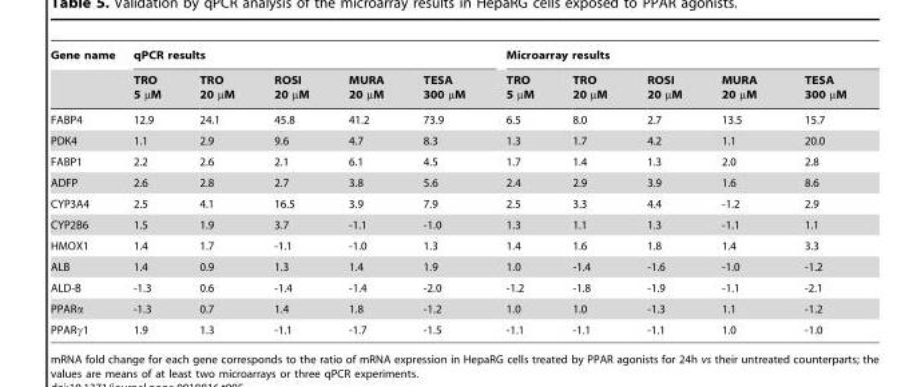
<table><thead><tr><td rowspan="2">Gene name</td><td colspan="5">qPCR results</td><td colspan="5">Microarray results</td></tr><tr><td>TRO 5 µM</td><td>TRO 20 µM</td><td>ROSI 20 µM</td><td>MURA 20 µM</td><td>TESA 300 µM</td><td>TRO 5 µM</td><td>TRO 20 µM</td><td>ROSI 20 µM</td><td>MURA 20 µM</td><td>TESA 300 µM</td></tr></thead><tbody><tr><td>FABP4</td><td>12.9</td><td>24.1</td><td>45.8</td><td>41.2</td><td>73.9</td><td>6.5</td><td>8.0</td><td>2.7</td><td>13.5</td><td>15.7</td></tr><tr><td>PDK4</td><td>1.1</td><td>2.9</td><td>9.6</td><td>4.7</td><td>8.3</td><td>1.3</td><td>1.7</td><td>4.2</td><td>1.1</td><td>20.0</td></tr><tr><td>FABP1</td><td>2.2</td><td>2.6</td><td>2.1</td><td>6.1</td><td>4.5</td><td>1.7</td><td>1.4</td><td>1.3</td><td>2.0</td><td>2.8</td></tr><tr><td>ADFP</td><td>2.6</td><td>2.8</td><td>2.7</td><td>3.8</td><td>5.6</td><td>2.4</td><td>2.9</td><td>3.9</td><td>1.6</td><td>8.6</td></tr><tr><td>CYP3A4</td><td>2.5</td><td>4.1</td><td>16.5</td><td>3.9</td><td>7.9</td><td>2.5</td><td>3.3</td><td>4.4</td><td>-1.2</td><td>2.9</td></tr><tr><td>CYP2B6</td><td>1.5</td><td>1.9</td><td>3.7</td><td>-1.1</td><td>-1.0</td><td>1.3</td><td>1.1</td><td>1.3</td><td>-1.1</td><td>1.1</td></tr><tr><td>HMOX1</td><td>1.4</td><td>1.7</td><td>-1.1</td><td>-1.0</td><td>1.3</td><td>1.4</td><td>1.6</td><td>1.8</td><td>1.4</td><td>3.3</td></tr><tr><td>ALB</td><td>1.4</td><td>0.9</td><td>1.3</td><td>1.4</td><td>1.9</td><td>1.0</td><td>-1.4</td><td>-1.6</td><td>-1.0</td><td>-1.2</td></tr><tr><td>ALD-B</td><td>-1.3</td><td>0.6</td><td>-1.4</td><td>-1.4</td><td>-2.0</td><td>-1.2</td><td>-1.8</td><td>-1.9</td><td>-1.1</td><td>-2.1</td></tr><tr><td>PPARα</td><td>-1.3</td><td>0.7</td><td>1.4</td><td>1.8</td><td>-1.2</td><td>1.0</td><td>1.0</td><td>-1.3</td><td>1.1</td><td>-1.2</td></tr><tr><td>PPARγ1</td><td>1.9</td><td>1.3</td><td>-1.1</td><td>-1.7</td><td>-1.5</td><td>-1.1</td><td>-1.1</td><td>-1.1</td><td>1.0</td><td>-1.0</td></tr></tbody></table>